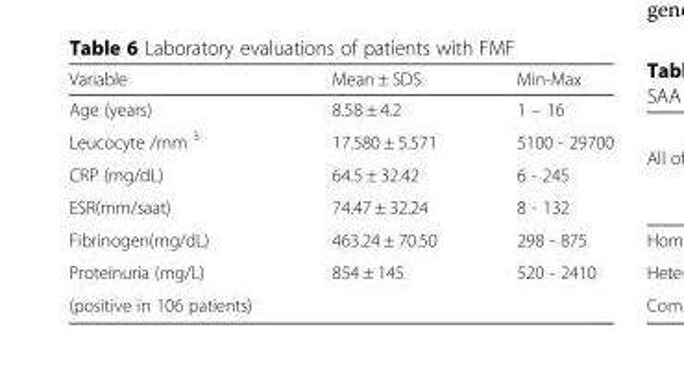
<table><thead><tr><td>Variable</td><td>Mean ± SDS</td><td>Min-Max</td></tr></thead><tbody><tr><td>Age (years)</td><td>8.58 ± 4.2</td><td>1 – 16</td></tr><tr><td>Leucocyte /mm <sup>3</sup></td><td>17.580 ± 5.571</td><td>5100 - 29700</td></tr><tr><td>CRP (mg/dL)</td><td>64.5 ± 32.42</td><td>6 - 245</td></tr><tr><td>ESR(mm/saat)</td><td>74.47 ± 32.24</td><td>8 - 132</td></tr><tr><td>Fibrinogen(mg/dL)</td><td>463.24 ± 70.50</td><td>298 - 875</td></tr><tr><td>Proteinuria (mg/L)</td><td rowspan="2">854 ± 145</td><td rowspan="2">520 - 2410</td></tr><tr><td>(positive in 106 patients)</td></tr></tbody></table>